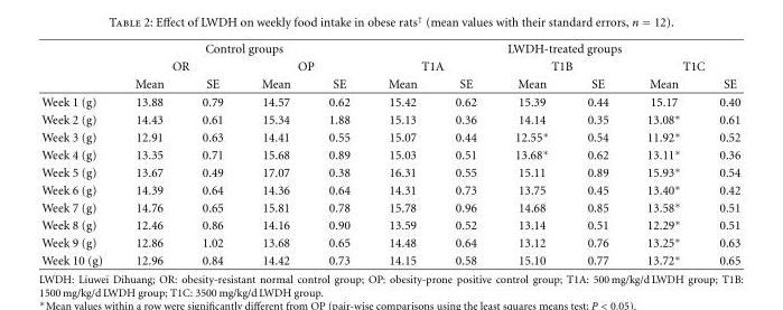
<table><thead><tr><td rowspan="3"></td><td colspan="4">Control groups</td><td colspan="6">LWDH-treated groups</td></tr><tr><td colspan="2">OR</td><td colspan="2">OP</td><td colspan="2">T1A</td><td colspan="2">T1B</td><td colspan="2">T1C</td></tr><tr><td>Mean</td><td>SE</td><td>Mean</td><td>SE</td><td>Mean</td><td>SE</td><td>Mean</td><td>SE</td><td>Mean</td><td>SE</td></tr></thead><tbody><tr><td>Week 1 (g)</td><td>13.88</td><td>0.79</td><td>14.57</td><td>0.62</td><td>15.42</td><td>0.62</td><td>15.39</td><td>0.44</td><td>15.17</td><td>0.40</td></tr><tr><td>Week 2 (g)</td><td>14.43</td><td>0.61</td><td>15.34</td><td>1.88</td><td>15.13</td><td>0.36</td><td>14.14</td><td>0.35</td><td>13.08∗</td><td>0.61</td></tr><tr><td>Week 3 (g)</td><td>12.91</td><td>0.63</td><td>14.41</td><td>0.55</td><td>15.07</td><td>0.44</td><td>12.55∗</td><td>0.54</td><td>11.92∗</td><td>0.52</td></tr><tr><td>Week 4 (g)</td><td>13.35</td><td>0.71</td><td>15.68</td><td>0.89</td><td>15.03</td><td>0.51</td><td>13.68∗</td><td>0.62</td><td>13.11∗</td><td>0.36</td></tr><tr><td>Week 5 (g)</td><td>13.67</td><td>0.49</td><td>17.07</td><td>0.38</td><td>16.31</td><td>0.55</td><td>15.11</td><td>0.89</td><td>15.93∗</td><td>0.54</td></tr><tr><td>Week 6 (g)</td><td>14.39</td><td>0.64</td><td>14.36</td><td>0.64</td><td>14.31</td><td>0.73</td><td>13.75</td><td>0.45</td><td>13.40∗</td><td>0.42</td></tr><tr><td>Week 7 (g)</td><td>14.76</td><td>0.65</td><td>15.81</td><td>0.78</td><td>15.78</td><td>0.96</td><td>14.68</td><td>0.85</td><td>13.58∗</td><td>0.51</td></tr><tr><td>Week 8 (g)</td><td>12.46</td><td>0.86</td><td>14.16</td><td>0.90</td><td>13.59</td><td>0.52</td><td>13.14</td><td>0.51</td><td>12.29∗</td><td>0.51</td></tr><tr><td>Week 9 (g)</td><td>12.86</td><td>1.02</td><td>13.68</td><td>0.65</td><td>14.48</td><td>0.64</td><td>13.12</td><td>0.76</td><td>13.25∗</td><td>0.63</td></tr><tr><td>Week 10 (g)</td><td>12.96</td><td>0.84</td><td>14.42</td><td>0.73</td><td>14.15</td><td>0.58</td><td>15.10</td><td>0.77</td><td>13.72∗</td><td>0.65</td></tr></tbody></table>